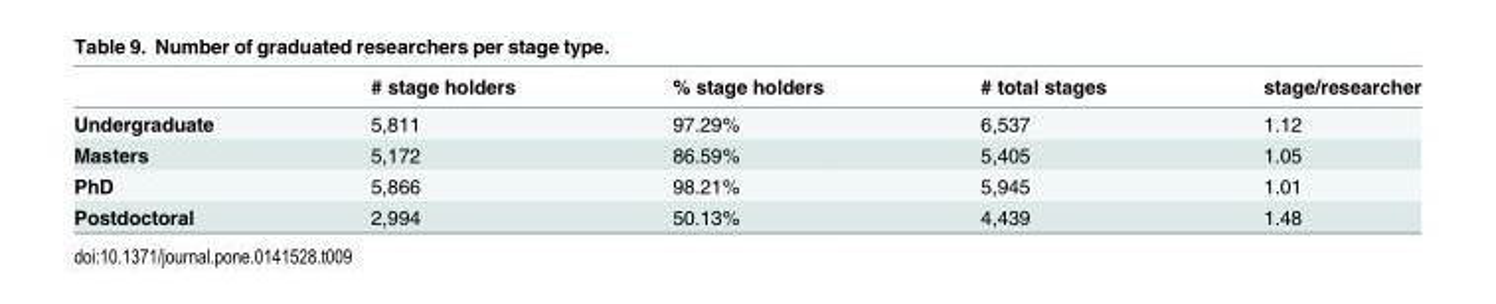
<table><thead><tr><td></td><td># stage holders</td><td>% stage holders</td><td># total stages</td><td>stage/researcher</td></tr></thead><tbody><tr><td>Undergraduate</td><td>5,811</td><td>97.29%</td><td>6,537</td><td>1.12</td></tr><tr><td>Masters</td><td>5,172</td><td>86.59%</td><td>5,405</td><td>1.05</td></tr><tr><td>PhD</td><td>5,866</td><td>98.21%</td><td>5,945</td><td>1.01</td></tr><tr><td>Postdoctoral</td><td>2,994</td><td>50.13%</td><td>4,439</td><td>1.48</td></tr></tbody></table>